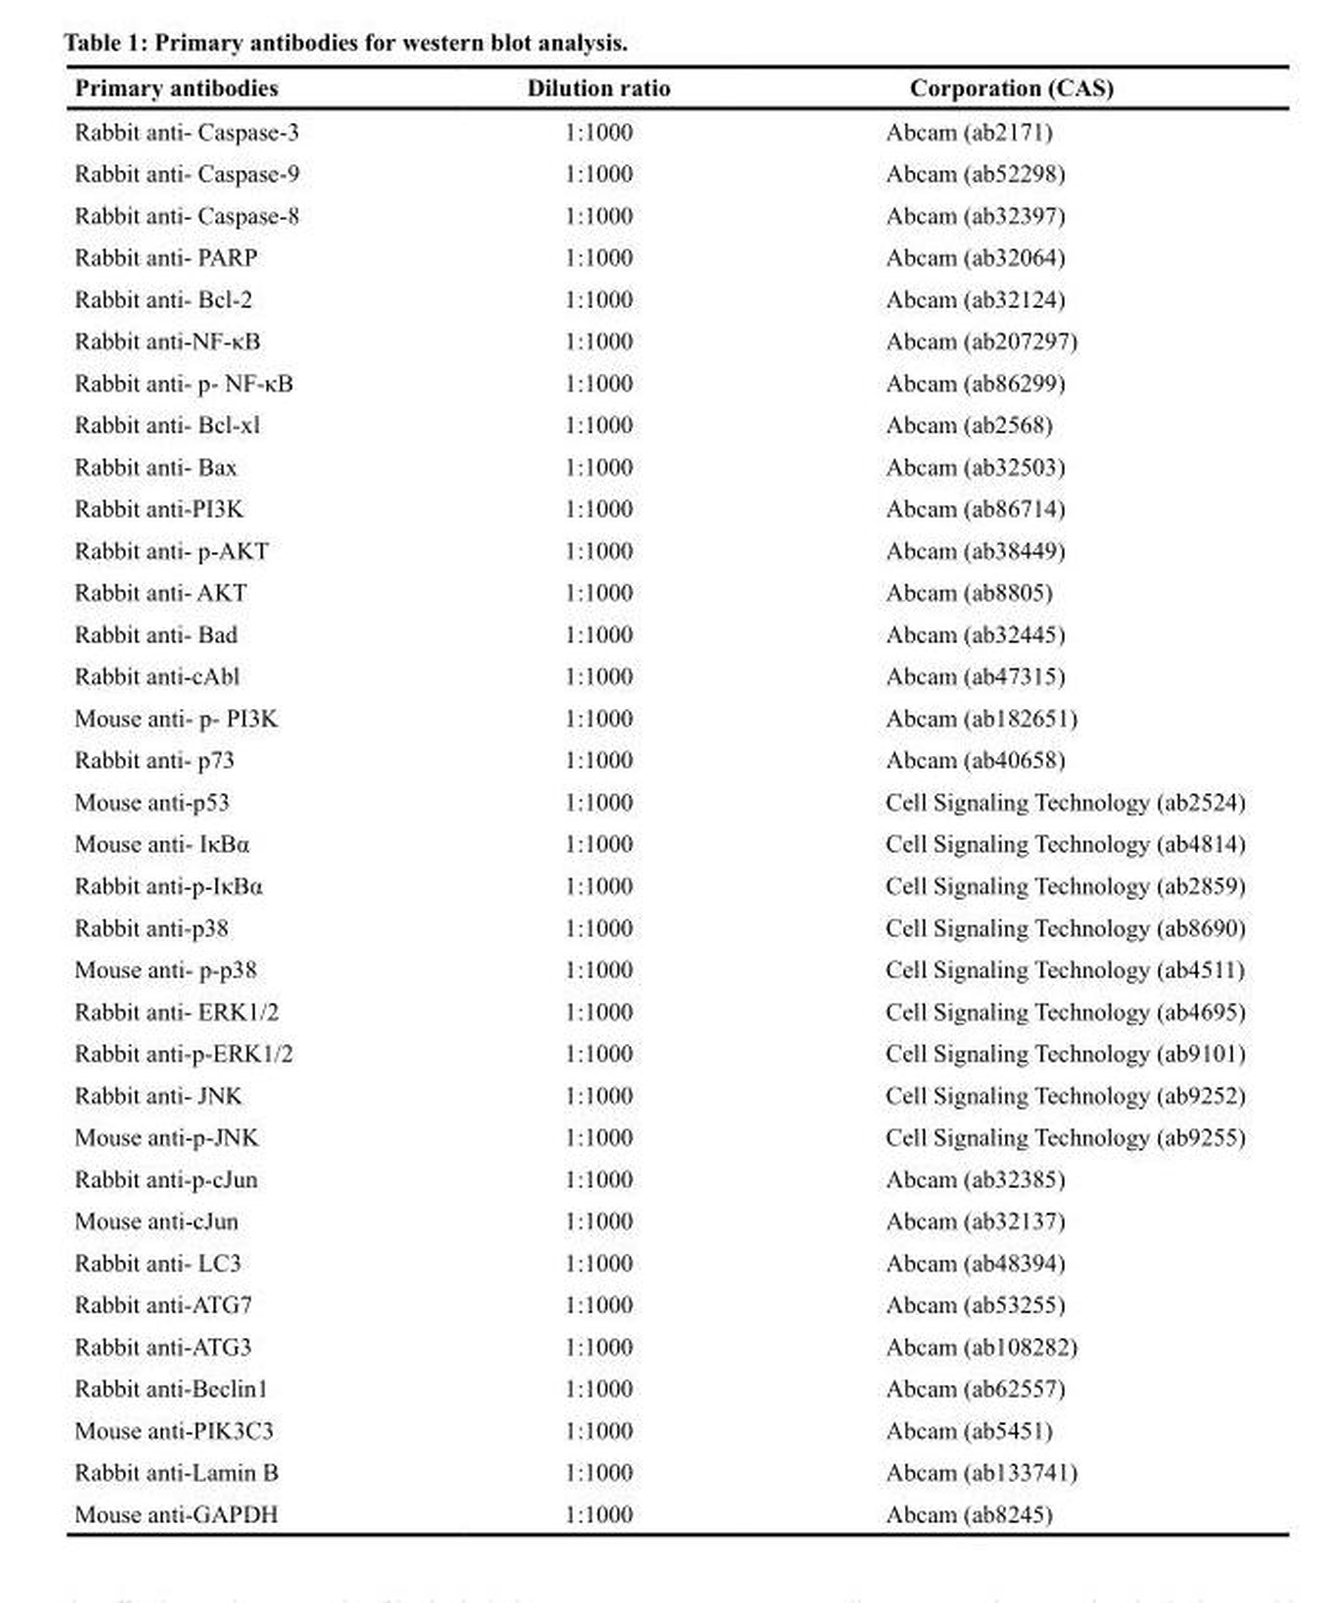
<table><thead><tr><td>Primary antibodies</td><td>Dilution ratio</td><td>Corporation (CAS)</td></tr></thead><tbody><tr><td>Rabbit anti- Caspase-3</td><td>1:1000</td><td>Abcam (ab2171)</td></tr><tr><td>Rabbit anti- Caspase-9</td><td>1:1000</td><td>Abcam (ab52298)</td></tr><tr><td>Rabbit anti- Caspase-8</td><td>1:1000</td><td>Abcam (ab32397)</td></tr><tr><td>Rabbit anti- PARP</td><td>1:1000</td><td>Abcam (ab32064)</td></tr><tr><td>Rabbit anti- Bcl-2</td><td>1:1000</td><td>Abcam (ab32124)</td></tr><tr><td>Rabbit anti-NF-κB</td><td>1:1000</td><td>Abcam (ab207297)</td></tr><tr><td>Rabbit anti- p- NF-κB</td><td>1:1000</td><td>Abcam (ab86299)</td></tr><tr><td>Rabbit anti- Bcl-xl</td><td>1:1000</td><td>Abcam (ab2568)</td></tr><tr><td>Rabbit anti- Bax</td><td>1:1000</td><td>Abcam (ab32503)</td></tr><tr><td>Rabbit anti-PI3K</td><td>1:1000</td><td>Abcam (ab86714)</td></tr><tr><td>Rabbit anti- p-AKT</td><td>1:1000</td><td>Abcam (ab38449)</td></tr><tr><td>Rabbit anti- AKT</td><td>1:1000</td><td>Abcam (ab8805)</td></tr><tr><td>Rabbit anti- Bad</td><td>1:1000</td><td>Abcam (ab32445)</td></tr><tr><td>Rabbit anti-cAbl</td><td>1:1000</td><td>Abcam (ab47315)</td></tr><tr><td>Mouse anti- p- PI3K</td><td>1:1000</td><td>Abcam (ab182651)</td></tr><tr><td>Rabbit anti- p73</td><td>1:1000</td><td>Abcam (ab40658)</td></tr><tr><td>Mouse anti-p53</td><td>1:1000</td><td>Cell Signaling Technology (ab2524)</td></tr><tr><td>Mouse anti- IκBα</td><td>1:1000</td><td>Cell Signaling Technology (ab4814)</td></tr><tr><td>Rabbit anti-p-IκBα</td><td>1:1000</td><td>Cell Signaling Technology (ab2859)</td></tr><tr><td>Rabbit anti-p38</td><td>1:1000</td><td>Cell Signaling Technology (ab8690)</td></tr><tr><td>Mouse anti- p-p38</td><td>1:1000</td><td>Cell Signaling Technology (ab4511)</td></tr><tr><td>Rabbit anti- ERK1/2</td><td>1:1000</td><td>Cell Signaling Technology (ab4695)</td></tr><tr><td>Rabbit anti-p-ERK1/2</td><td>1:1000</td><td>Cell Signaling Technology (ab9101)</td></tr><tr><td>Rabbit anti- JNK</td><td>1:1000</td><td>Cell Signaling Technology (ab9252)</td></tr><tr><td>Mouse anti-p-JNK</td><td>1:1000</td><td>Cell Signaling Technology (ab9255)</td></tr><tr><td>Rabbit anti-p-cJun</td><td>1:1000</td><td>Abcam (ab32385)</td></tr><tr><td>Mouse anti-cJun</td><td>1:1000</td><td>Abcam (ab32137)</td></tr><tr><td>Rabbit anti- LC3</td><td>1:1000</td><td>Abcam (ab48394)</td></tr><tr><td>Rabbit anti-ATG7</td><td>1:1000</td><td>Abcam (ab53255)</td></tr><tr><td>Rabbit anti-ATG3</td><td>1:1000</td><td>Abcam (ab108282)</td></tr><tr><td>Rabbit anti-Beclin1</td><td>1:1000</td><td>Abcam (ab62557)</td></tr><tr><td>Mouse anti-PIK3C3</td><td>1:1000</td><td>Abcam (ab5451)</td></tr><tr><td>Rabbit anti-Lamin B</td><td>1:1000</td><td>Abcam (ab133741)</td></tr><tr><td>Mouse anti-GAPDH</td><td>1:1000</td><td>Abcam (ab8245)</td></tr></tbody></table>